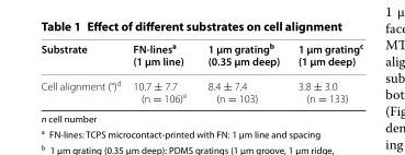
<table><thead><tr><td>Substrate</td><td>FN‑lines<sup>a</sup> (1 µm line)</td><td>1 µm grating<sup>b</sup> (0.35 µm deep)</td><td>1 µm grating<sup>c</sup> (1 µm deep)</td></tr></thead><tbody><tr><td>Cell alignment (°)<sup>d</sup></td><td>10.7 ± 7.7 (n = 106)<sup>e</sup></td><td>8.4 ± 7.4 (n = 103)</td><td>3.8 ± 3.0 (n = 133)</td></tr></tbody></table>